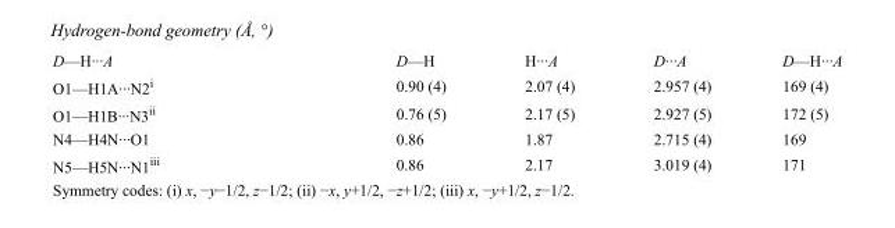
<table><tbody><tr><td>D—H···A</td><td>D—H</td><td>H···A</td><td>D···A</td><td>D—H···A</td></tr><tr><td>O1—H1A···N2<sup>i</sup></td><td>0.90 (4)</td><td>2.07 (4)</td><td>2.957 (4)</td><td>169 (4)</td></tr><tr><td>O1—H1B···N3<sup>ii</sup></td><td>0.76 (5)</td><td>2.17 (5)</td><td>2.927 (5)</td><td>172 (5)</td></tr><tr><td>N4—H4N···O1</td><td>0.86</td><td>1.87</td><td>2.715 (4)</td><td>169</td></tr><tr><td>N5—H5N···N1<sup>iii</sup></td><td>0.86</td><td>2.17</td><td>3.019 (4)</td><td>171</td></tr></tbody></table>